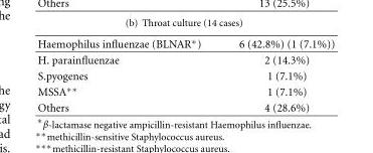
<table><thead><tr><td>Haemophilus influenzae (BLNAR∗)</td><td>6 (42.8%) (1 (7.1%))</td></tr></thead><tbody><tr><td>H. parainfluenzae</td><td>2 (14.3%)</td></tr><tr><td>S.pyogenes</td><td>1 (7.1%)</td></tr><tr><td>MSSA∗∗</td><td>1 (7.1%)</td></tr><tr><td>Others</td><td>4 (28.6%)</td></tr></tbody></table>